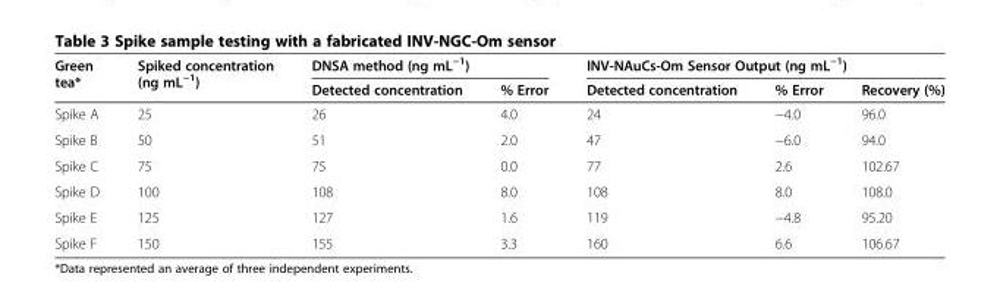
<table><thead><tr><td rowspan="2">Green tea*</td><td rowspan="2">Spiked concentration (ng mL<sup>−1</sup>)</td><td colspan="2">DNSA method (ng mL<sup>−1</sup>)</td><td colspan="3">INV-NAuCs-Om Sensor Output (ng mL<sup>−1</sup>)</td></tr><tr><td>Detected concentration</td><td>% Error</td><td>Detected concentration</td><td>% Error</td><td>Recovery (%)</td></tr></thead><tbody><tr><td>Spike A</td><td>25</td><td>26</td><td>4.0</td><td>24</td><td>−4.0</td><td>96.0</td></tr><tr><td>Spike B</td><td>50</td><td>51</td><td>2.0</td><td>47</td><td>−6.0</td><td>94.0</td></tr><tr><td>Spike C</td><td>75</td><td>75</td><td>0.0</td><td>77</td><td>2.6</td><td>102.67</td></tr><tr><td>Spike D</td><td>100</td><td>108</td><td>8.0</td><td>108</td><td>8.0</td><td>108.0</td></tr><tr><td>Spike E</td><td>125</td><td>127</td><td>1.6</td><td>119</td><td>−4.8</td><td>95.20</td></tr><tr><td>Spike F</td><td>150</td><td>155</td><td>3.3</td><td>160</td><td>6.6</td><td>106.67</td></tr></tbody></table>